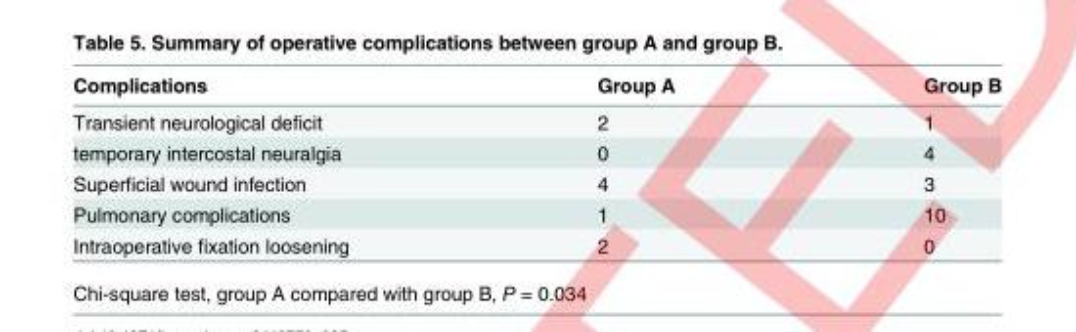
<table><thead><tr><td>Complications</td><td>Group A</td><td>Group B</td></tr></thead><tbody><tr><td>Transient neurological deficit</td><td>2</td><td>1</td></tr><tr><td>temporary intercostal neuralgia</td><td>0</td><td>4</td></tr><tr><td>Superficial wound infection</td><td>4</td><td>3</td></tr><tr><td>Pulmonary complications</td><td>1</td><td>10</td></tr><tr><td>Intraoperative fixation loosening</td><td>2</td><td>0</td></tr></tbody></table>